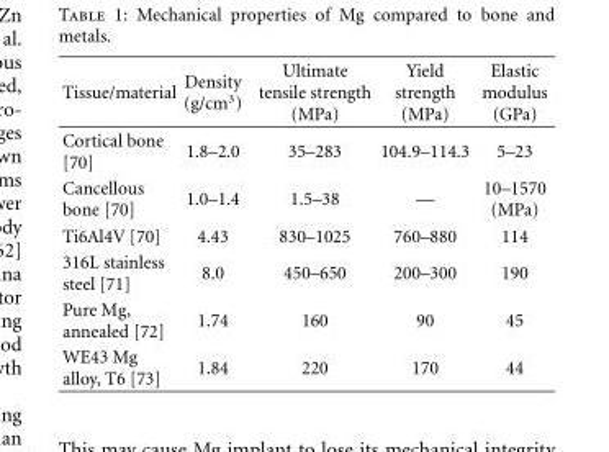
<table><thead><tr><td>Tissue/material</td><td>Density (g/cm<sup>3</sup>)</td><td>Ultimate tensile strength (MPa)</td><td>Yield strength (MPa)</td><td>Elastic modulus (GPa)</td></tr></thead><tbody><tr><td>Cortical bone [70]</td><td>1.8–2.0</td><td>35–283</td><td>104.9–114.3</td><td>5–23</td></tr><tr><td>Cancellous bone [70]</td><td>1.0–1.4</td><td>1.5–38</td><td>—</td><td>10–1570 (MPa)</td></tr><tr><td>Ti6Al4V [70]</td><td>4.43</td><td>830–1025</td><td>760–880</td><td>114</td></tr><tr><td>316L stainless steel [71]</td><td>8.0</td><td>450–650</td><td>200–300</td><td>190</td></tr><tr><td>Pure Mg, annealed [72]</td><td>1.74</td><td>160</td><td>90</td><td>45</td></tr><tr><td>WE43 Mg alloy, T6 [73]</td><td>1.84</td><td>220</td><td>170</td><td>44</td></tr></tbody></table>